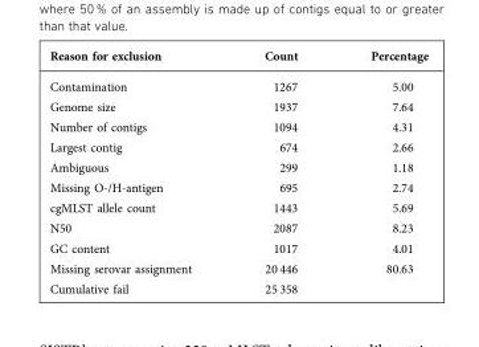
<table><thead><tr><td>Reason for exclusion</td><td>Count</td><td>Percentage</td></tr></thead><tbody><tr><td>Contamination</td><td>1267</td><td>5.00</td></tr><tr><td>Genome size</td><td>1937</td><td>7.64</td></tr><tr><td>Number of contigs</td><td>1094</td><td>4.31</td></tr><tr><td>Largest contig</td><td>674</td><td>2.66</td></tr><tr><td>Ambiguous</td><td>299</td><td>1.18</td></tr><tr><td>Missing O-/H-antigen</td><td>695</td><td>2.74</td></tr><tr><td>cgMLST allele count</td><td>1443</td><td>5.69</td></tr><tr><td>N50</td><td>2087</td><td>8.23</td></tr><tr><td>GC content</td><td>1017</td><td>4.01</td></tr><tr><td>Missing serovar assignment</td><td>20 446</td><td>80.63</td></tr><tr><td>Cumulative fail</td><td>25 358</td><td></td></tr></tbody></table>